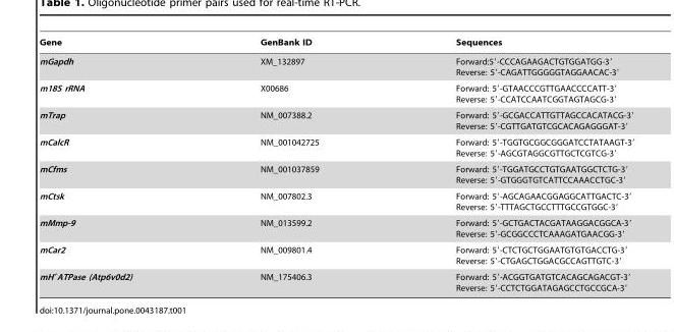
<table><thead><tr><td>Gene</td><td>GenBank ID</td><td>Sequences</td></tr></thead><tbody><tr><td>mGapdh</td><td>XM_132897</td><td>Forward:5′-CCCAGAAGACTGTGGATGG-3′ Reverse: 5′-CAGATTGGGGGTAGGAACAC-3′</td></tr><tr><td>m18S rRNA</td><td>X00686</td><td>Forward: 5′-GTAACCCGTTGAACCCCATT-3′ Reverse: 5′-CCATCCAATCGGTAGTAGCG-3′</td></tr><tr><td>mTrap</td><td>NM_007388.2</td><td>Forward: 5′-GCGACCATTGTTAGCCACATACG-3′ Reverse: 5′-CGTTGATGTCGCACAGAGGGAT-3′</td></tr><tr><td>mCalcR</td><td>NM_001042725</td><td>Forward: 5′-TGGTGCGGCGGGATCCTATAAGT-3′ Reverse: 5′-AGCGTAGGCGTTGCTCGTCG-3′</td></tr><tr><td>mCfms</td><td>NM_001037859</td><td>Forward: 5′-TGGATGCCTGTGAATGGCTCTG-3′ Reverse: 5′-GTGGGTGTCATTCCAAACCTGC-3′</td></tr><tr><td>mCtsk</td><td>NM_007802.3</td><td>Forward: 5′-AGCAGAACGGAGGCATTGACTC-3′ Reverse: 5′-TTTAGCTGCCTTTGCCGTGGC-3′</td></tr><tr><td>mMmp-9</td><td>NM_013599.2</td><td>Forward: 5′-GCTGACTACGATAAGGACGGCA-3′ Reverse: 5′-GCGGCCCTCAAAGATGAACGG-3′</td></tr><tr><td>mCar2</td><td>NM_009801.4</td><td>Forward: 5′-CTCTGCTGGAATGTGTGACCTG-3′ Reverse: 5′-CTGAGCTGGACGCCAGTTGTC-3′</td></tr><tr><td>mH<sup>+</sup>ATPase (Atp6v0d2)</td><td>NM_175406.3</td><td>Forward: 5′-ACGGTGATGTCACAGCAGACGT-3′ Reverse: 5′-CCTCTGGATAGAGCCTGCCGCA-3′</td></tr></tbody></table>